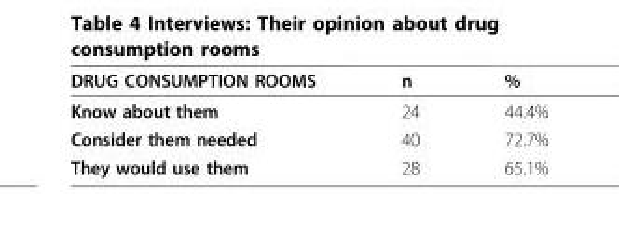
<table><thead><tr><td>DRUG CONSUMPTION ROOMS</td><td>n</td><td>%</td></tr></thead><tbody><tr><td>Know about them</td><td>24</td><td>44.4%</td></tr><tr><td>Consider them needed</td><td>40</td><td>72.7%</td></tr><tr><td>They would use them</td><td>28</td><td>65.1%</td></tr></tbody></table>